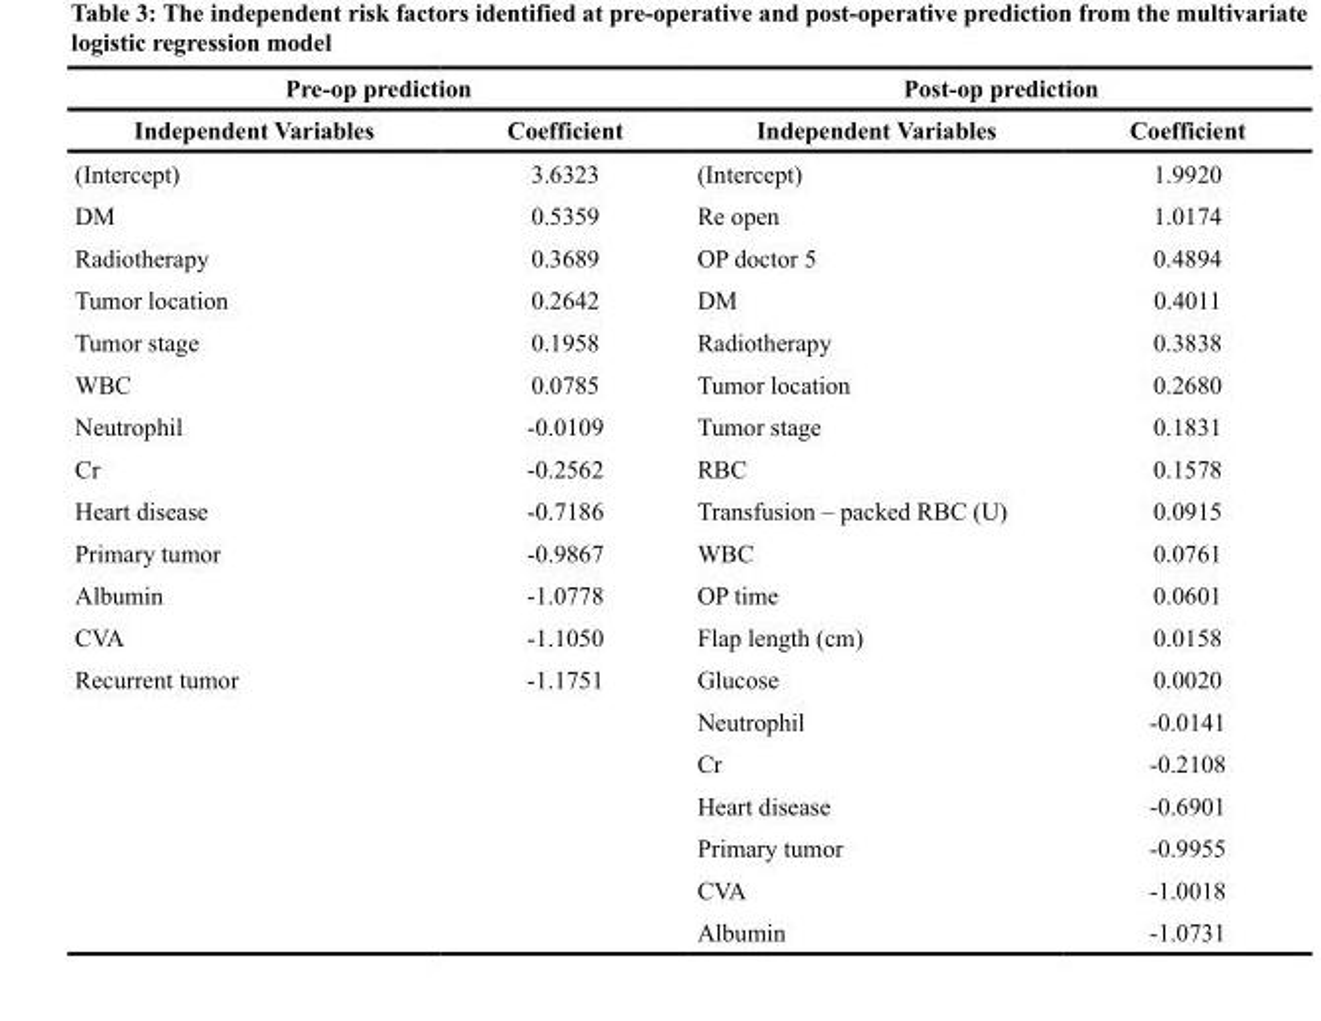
<table><thead><tr><td colspan="2">Pre-op prediction</td><td colspan="2">Post-op prediction</td></tr><tr><td>Independent Variables</td><td>Coefficient</td><td>Independent Variables</td><td>Coefficient</td></tr></thead><tbody><tr><td>(Intercept)</td><td>3.6323</td><td>(Intercept)</td><td>1.9920</td></tr><tr><td>DM</td><td>0.5359</td><td>Re open</td><td>1.0174</td></tr><tr><td>Radiotherapy</td><td>0.3689</td><td>OP doctor 5</td><td>0.4894</td></tr><tr><td>Tumor location</td><td>0.2642</td><td>DM</td><td>0.4011</td></tr><tr><td>Tumor stage</td><td>0.1958</td><td>Radiotherapy</td><td>0.3838</td></tr><tr><td>WBC</td><td>0.0785</td><td>Tumor location</td><td>0.2680</td></tr><tr><td>Neutrophil</td><td>-0.0109</td><td>Tumor stage</td><td>0.1831</td></tr><tr><td>Cr</td><td>-0.2562</td><td>RBC</td><td>0.1578</td></tr><tr><td>Heart disease</td><td>-0.7186</td><td>Transfusion – packed RBC (U)</td><td>0.0915</td></tr><tr><td>Primary tumor</td><td>-0.9867</td><td>WBC</td><td>0.0761</td></tr><tr><td>Albumin</td><td>-1.0778</td><td>OP time</td><td>0.0601</td></tr><tr><td>CVA</td><td>-1.1050</td><td>Flap length (cm)</td><td>0.0158</td></tr><tr><td rowspan="7">Recurrent tumor</td><td>-1.1751</td><td>Glucose</td><td>0.0020</td></tr><tr><td></td><td>Neutrophil</td><td>-0.0141</td></tr><tr><td></td><td>Cr</td><td>-0.2108</td></tr><tr><td></td><td>Heart disease</td><td>-0.6901</td></tr><tr><td></td><td>Primary tumor</td><td>-0.9955</td></tr><tr><td></td><td>CVA</td><td>-1.0018</td></tr><tr><td></td><td>Albumin</td><td>-1.0731</td></tr></tbody></table>